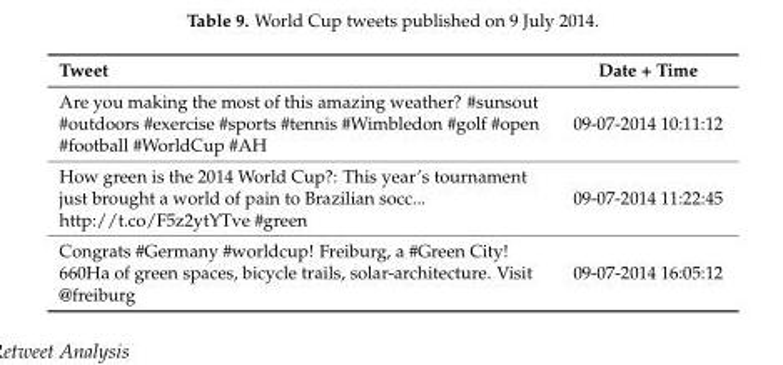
<table><thead><tr><td>Tweet</td><td>Date + Time</td></tr></thead><tbody><tr><td>Are you making the most of this amazing weather? #sunsout #outdoors #exercise #sports #tennis #Wimbledon #golf #open #football #WorldCup #AH</td><td>09-07-2014 10:11:12</td></tr><tr><td>How green is the 2014 World Cup?: This year’s tournament just brought a world of pain to Brazilian socc... http://t.co/F5z2ytYTve #green</td><td>09-07-2014 11:22:45</td></tr><tr><td>Congrats #Germany #worldcup! Freiburg, a #Green City! 660Ha of green spaces, bicycle trails, solar-architecture. Visit @freiburg</td><td>09-07-2014 16:05:12</td></tr></tbody></table>